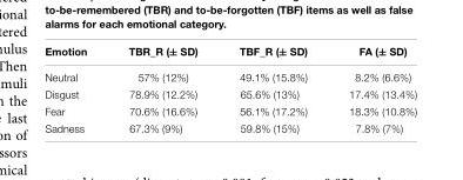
<table><thead><tr><td>Emotion</td><td>TBR_R (± SD)</td><td>TBF_R (± SD)</td><td>FA (± SD)</td></tr></thead><tbody><tr><td>Neutral</td><td>57% (12%)</td><td>49.1% (15.8%)</td><td>8.2% (6.6%)</td></tr><tr><td>Disgust</td><td>78.9% (12.2%)</td><td>65.6% (13%)</td><td>17.4% (13.4%)</td></tr><tr><td>Fear</td><td>70.6% (16.6%)</td><td>56.1% (17.2%)</td><td>18.3% (10.8%)</td></tr><tr><td>Sadness</td><td>67.3% (9%)</td><td>59.8% (15%)</td><td>7.8% (7%)</td></tr></tbody></table>